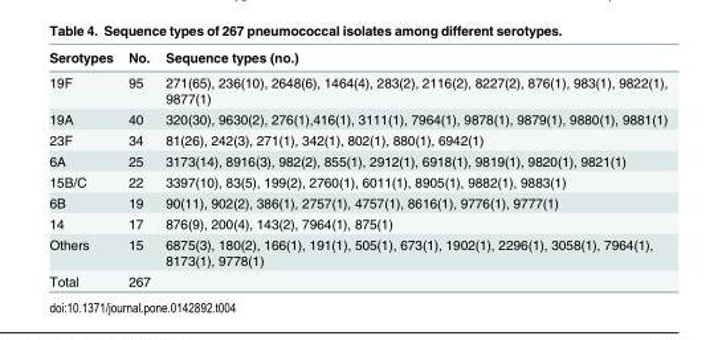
<table><thead><tr><td>Serotypes</td><td>No.</td><td>Sequence types (no.)</td></tr></thead><tbody><tr><td>19F</td><td>95</td><td>271(65), 236(10), 2648(6), 1464(4), 283(2), 2116(2), 8227(2), 876(1), 983(1), 9822(1), 9877(1)</td></tr><tr><td>19A</td><td>40</td><td>320(30), 9630(2), 276(1),416(1), 3111(1), 7964(1), 9878(1), 9879(1), 9880(1), 9881(1)</td></tr><tr><td>23F</td><td>34</td><td>81(26), 242(3), 271(1), 342(1), 802(1), 880(1), 6942(1)</td></tr><tr><td>6A</td><td>25</td><td>3173(14), 8916(3), 982(2), 855(1), 2912(1), 6918(1), 9819(1), 9820(1), 9821(1)</td></tr><tr><td>15B/C</td><td>22</td><td>3397(10), 83(5), 199(2), 2760(1), 6011(1), 8905(1), 9882(1), 9883(1)</td></tr><tr><td>6B</td><td>19</td><td>90(11), 902(2), 386(1), 2757(1), 4757(1), 8616(1), 9776(1), 9777(1)</td></tr><tr><td>14</td><td>17</td><td>876(9), 200(4), 143(2), 7964(1), 875(1)</td></tr><tr><td>Others</td><td>15</td><td>6875(3), 180(2), 166(1), 191(1), 505(1), 673(1), 1902(1), 2296(1), 3058(1), 7964(1), 8173(1), 9778(1)</td></tr><tr><td>Total</td><td>267</td><td></td></tr></tbody></table>